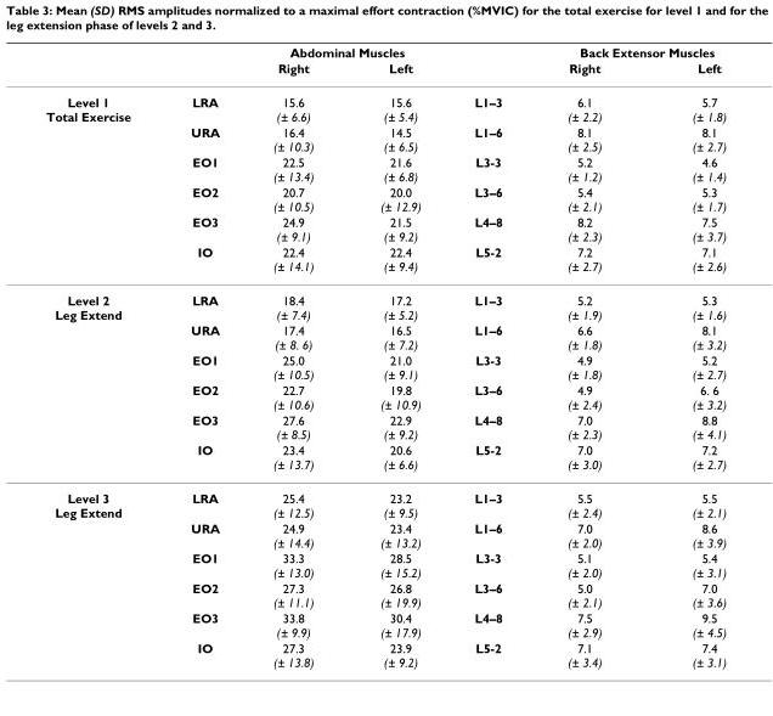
<table><thead><tr><td rowspan="2"></td><td rowspan="2"></td><td colspan="2">Abdominal Muscles</td><td rowspan="2"></td><td colspan="2">Back Extensor Muscles</td></tr><tr><td>Right</td><td>Left</td><td>Right</td><td>Left</td></tr></thead><tbody><tr><td rowspan="6">Level 1 Total Exercise</td><td>LRA</td><td>15.6 (± 6.6)</td><td>15.6 (± 5.4)</td><td>L1–3</td><td>6.1 (± 2.2)</td><td>5.7 (± 1.8)</td></tr><tr><td>URA</td><td>16.4 (± 10.3)</td><td>14.5 (± 6.5)</td><td>L1–6</td><td>8.1 (± 2.5)</td><td>8.1 (± 2.7)</td></tr><tr><td>EO1</td><td>22.5 (± 13.4)</td><td>21.6 (± 6.8)</td><td>L3-3</td><td>5.2 (± 1.2)</td><td>4.6 (± 1.4)</td></tr><tr><td>EO2</td><td>20.7 (± 10.5)</td><td>20.0 (± 12.9)</td><td>L3–6</td><td>5.4 (± 2.1)</td><td>5.3 (± 1.7)</td></tr><tr><td>EO3</td><td>24.9 (± 9.1)</td><td>21.5 (± 9.2)</td><td>L4–8</td><td>8.2 (± 2.3)</td><td>7.5 (± 3.7)</td></tr><tr><td>IO</td><td>22.4 (± 14.1)</td><td>22.4 (± 9.4)</td><td>L5-2</td><td>7.2 (± 2.7)</td><td>7.1 (± 2.6)</td></tr><tr><td rowspan="6">Level 2 Leg Extend</td><td>LRA</td><td>18.4 (± 7.4)</td><td>17.2 (± 5.2)</td><td>L1–3</td><td>5.2 (± 1.9)</td><td>5.3 (± 1.6)</td></tr><tr><td>URA</td><td>17.4 (± 8. 6)</td><td>16.5 (± 7.2)</td><td>L1–6</td><td>6.6 (± 1.8)</td><td>8.1 (± 3.2)</td></tr><tr><td>EO1</td><td>25.0 (± 10.5)</td><td>21.0 (± 9.1)</td><td>L3-3</td><td>4.9 (± 1.8)</td><td>5.2 (± 2.7)</td></tr><tr><td>EO2</td><td>22.7 (± 10.6)</td><td>19.8 (± 10.9)</td><td>L3–6</td><td>4.9 (± 2.4)</td><td>6. 6 (± 3.2)</td></tr><tr><td>EO3</td><td>27.6 (± 8.5)</td><td>22.9 (± 9.2)</td><td>L4–8</td><td>7.0 (± 2.3)</td><td>8.8 (± 4.1)</td></tr><tr><td>IO</td><td>23.4 (± 13.7)</td><td>20.6 (± 6.6)</td><td>L5-2</td><td>7.0 (± 3.0)</td><td>7.2 (± 2.7)</td></tr><tr><td rowspan="6">Level 3 Leg Extend</td><td>LRA</td><td>25.4 (± 12.5)</td><td>23.2 (± 9.5)</td><td>L1–3</td><td>5.5 (± 2.4)</td><td>5.5 (± 2.1)</td></tr><tr><td>URA</td><td>24.9 (± 14.4)</td><td>23.4 (± 13.2)</td><td>L1–6</td><td>7.0 (± 2.0)</td><td>8.6 (± 3.9)</td></tr><tr><td>EO1</td><td>33.3 (± 13.0)</td><td>28.5 (± 15.2)</td><td>L3-3</td><td>5.1 (± 2.0)</td><td>5.4 (± 3.1)</td></tr><tr><td>EO2</td><td>27.3 (± 11.1)</td><td>26.8 (± 19.9)</td><td>L3–6</td><td>5.0 (± 2.1)</td><td>7.0 (± 3.6)</td></tr><tr><td>EO3</td><td>33.8 (± 9.9)</td><td>30.4 (± 17.9)</td><td>L4–8</td><td>7.5 (± 2.9)</td><td>9.5 (± 4.5)</td></tr><tr><td>IO</td><td>27.3 (± 13.8)</td><td>23.9 (± 9.2)</td><td>L5-2</td><td>7.1 (± 3.4)</td><td>7.4 (± 3.1)</td></tr></tbody></table>